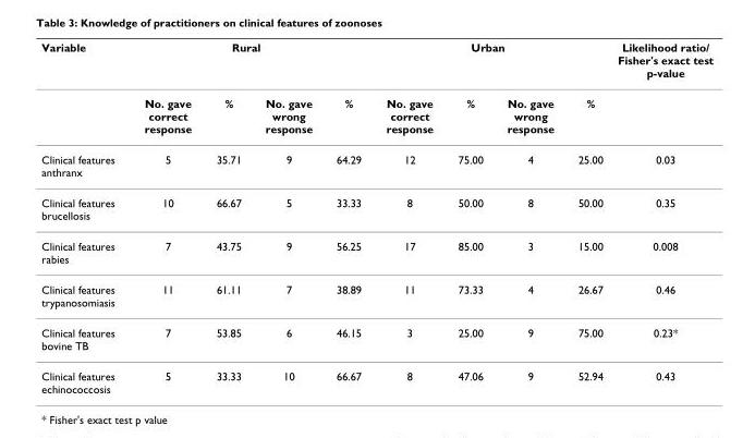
<table><thead><tr><td rowspan="2">Variable</td><td colspan="4">Rural</td><td colspan="4">Urban</td><td rowspan="2">Likelihood ratio/ Fisher&#x27;s exact test p-value</td></tr><tr><td>No. gave correct response</td><td>%</td><td>No. gave wrong response</td><td>%</td><td>No. gave correct response</td><td>%</td><td>No. gave wrong response</td><td>%</td></tr></thead><tbody><tr><td>Clinical features anthranx</td><td>5</td><td>35.71</td><td>9</td><td>64.29</td><td>12</td><td>75.00</td><td>4</td><td>25.00</td><td>0.03</td></tr><tr><td>Clinical features brucellosis</td><td>10</td><td>66.67</td><td>5</td><td>33.33</td><td>8</td><td>50.00</td><td>8</td><td>50.00</td><td>0.35</td></tr><tr><td>Clinical features rabies</td><td>7</td><td>43.75</td><td>9</td><td>56.25</td><td>17</td><td>85.00</td><td>3</td><td>15.00</td><td>0.008</td></tr><tr><td>Clinical features trypanosomiasis</td><td>11</td><td>61.11</td><td>7</td><td>38.89</td><td>11</td><td>73.33</td><td>4</td><td>26.67</td><td>0.46</td></tr><tr><td>Clinical features bovine TB</td><td>7</td><td>53.85</td><td>6</td><td>46.15</td><td>3</td><td>25.00</td><td>9</td><td>75.00</td><td>0.23*</td></tr><tr><td>Clinical features echinococcosis</td><td>5</td><td>33.33</td><td>10</td><td>66.67</td><td>8</td><td>47.06</td><td>9</td><td>52.94</td><td>0.43</td></tr></tbody></table>